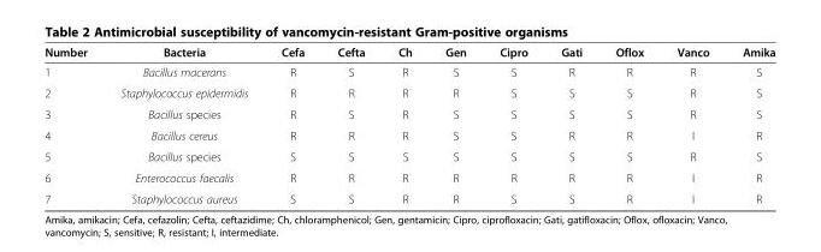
<table><thead><tr><td>Number</td><td>Bacteria</td><td>Cefa</td><td>Cefta</td><td>Ch</td><td>Gen</td><td>Cipro</td><td>Gati</td><td>Oflox</td><td>Vanco</td><td>Amika</td></tr></thead><tbody><tr><td>1</td><td>Bacillus macerans</td><td>R</td><td>S</td><td>R</td><td>S</td><td>S</td><td>R</td><td>R</td><td>R</td><td>S</td></tr><tr><td>2</td><td>Staphylococcus epidermidis</td><td>R</td><td>R</td><td>R</td><td>R</td><td>S</td><td>S</td><td>S</td><td>R</td><td>S</td></tr><tr><td>3</td><td>Bacillus species</td><td>R</td><td>S</td><td>R</td><td>S</td><td>S</td><td>S</td><td>S</td><td>R</td><td>S</td></tr><tr><td>4</td><td>Bacillus cereus</td><td>R</td><td>R</td><td>R</td><td>S</td><td>S</td><td>R</td><td>R</td><td>I</td><td>R</td></tr><tr><td>5</td><td>Bacillus species</td><td>S</td><td>S</td><td>S</td><td>S</td><td>S</td><td>S</td><td>S</td><td>R</td><td>S</td></tr><tr><td>6</td><td>Enterococcus faecalis</td><td>R</td><td>R</td><td>R</td><td>R</td><td>R</td><td>R</td><td>R</td><td>I</td><td>R</td></tr><tr><td>7</td><td>Staphylococcus aureus</td><td>S</td><td>S</td><td>R</td><td>R</td><td>S</td><td>S</td><td>R</td><td>I</td><td>R</td></tr></tbody></table>